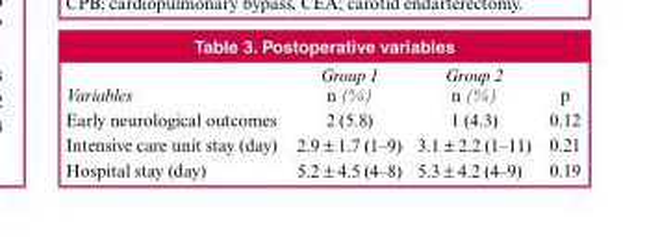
<table><thead><tr><td>Variables</td><td>Group 1 n (%)</td><td>Group 2 n (%)</td><td>p</td></tr></thead><tbody><tr><td>Early neurological outcomes</td><td>2 (5.8)</td><td>1 (4.3)</td><td>0.12</td></tr><tr><td>Intensive care unit stay (day)</td><td>2.9 ± 1.7 (1–9)</td><td>3.1 ± 2.2 (1–11)</td><td>0.21</td></tr><tr><td>Hospital stay (day)</td><td>5.2 ± 4.5 (4–8)</td><td>5.3 ± 4.2 (4–9)</td><td>0.19</td></tr></tbody></table>